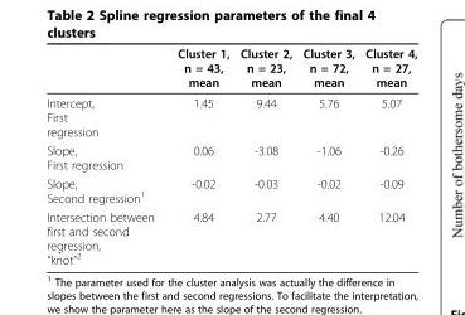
<table><thead><tr><td></td><td>Cluster 1, n = 43, mean</td><td>Cluster 2, n = 23, mean</td><td>Cluster 3, n = 72, mean</td><td>Cluster 4, n = 27, mean</td></tr></thead><tbody><tr><td>Intercept, First regression</td><td>1.45</td><td>9.44</td><td>5.76</td><td>5.07</td></tr><tr><td>Slope, First regression</td><td>0.06</td><td>-3.08</td><td>-1.06</td><td>-0.26</td></tr><tr><td>Slope, Second regression<sup>1</sup></td><td>-0.02</td><td>-0.03</td><td>-0.02</td><td>-0.09</td></tr><tr><td>Intersection between first and second regression, “knot”2</td><td>4.84</td><td>2.77</td><td>4.40</td><td>12.04</td></tr></tbody></table>